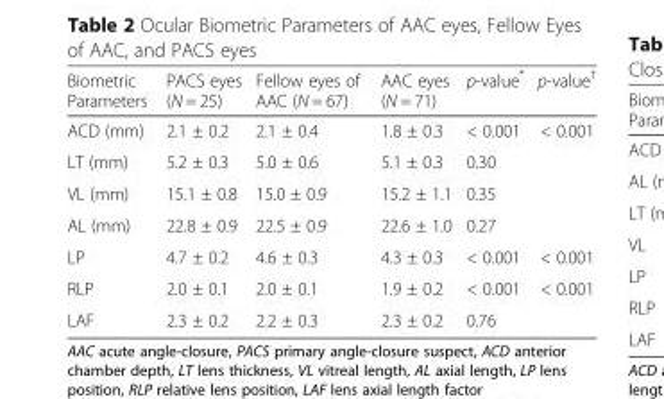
<table><thead><tr><td>Biometric Parameters</td><td>PACS eyes (N = 25)</td><td>Fellow eyes of AAC (N = 67)</td><td>AAC eyes (N = 71)</td><td>p-value*</td><td>p-value<sup>†</sup></td></tr></thead><tbody><tr><td>ACD (mm)</td><td>2.1 ± 0.2</td><td>2.1 ± 0.4</td><td>1.8 ± 0.3</td><td>&lt; 0.001</td><td>&lt; 0.001</td></tr><tr><td>LT (mm)</td><td>5.2 ± 0.3</td><td>5.0 ± 0.6</td><td>5.1 ± 0.3</td><td>0.30</td><td></td></tr><tr><td>VL (mm)</td><td>15.1 ± 0.8</td><td>15.0 ± 0.9</td><td>15.2 ± 1.1</td><td>0.35</td><td></td></tr><tr><td>AL (mm)</td><td>22.8 ± 0.9</td><td>22.5 ± 0.9</td><td>22.6 ± 1.0</td><td>0.27</td><td></td></tr><tr><td>LP</td><td>4.7 ± 0.2</td><td>4.6 ± 0.3</td><td>4.3 ± 0.3</td><td>&lt; 0.001</td><td>&lt; 0.001</td></tr><tr><td>RLP</td><td>2.0 ± 0.1</td><td>2.0 ± 0.1</td><td>1.9 ± 0.2</td><td>&lt; 0.001</td><td>&lt; 0.001</td></tr><tr><td>LAF</td><td>2.3 ± 0.2</td><td>2.2 ± 0.3</td><td>2.3 ± 0.2</td><td>0.76</td><td></td></tr></tbody></table>